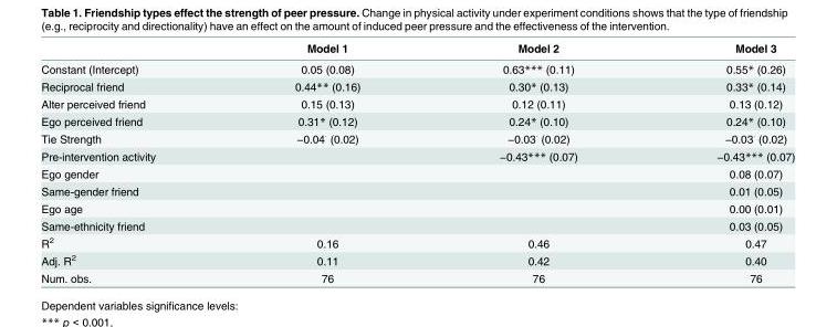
<table><thead><tr><td></td><td>Model 1</td><td>Model 2</td><td>Model 3</td></tr></thead><tbody><tr><td>Constant (Intercept)</td><td>0.05 (0.08)</td><td>0.63*** (0.11)</td><td>0.55* (0.26)</td></tr><tr><td>Reciprocal friend</td><td>0.44** (0.16)</td><td>0.30* (0.13)</td><td>0.33* (0.14)</td></tr><tr><td>Alter perceived friend</td><td>0.15 (0.13)</td><td>0.12 (0.11)</td><td>0.13 (0.12)</td></tr><tr><td>Ego perceived friend</td><td>0.31* (0.12)</td><td>0.24* (0.10)</td><td>0.24* (0.10)</td></tr><tr><td>Tie Strength</td><td>−0.04<sup>⋅</sup> (0.02)</td><td>−0.03<sup>⋅</sup> (0.02)</td><td>−0.03<sup>⋅</sup> (0.02)</td></tr><tr><td>Pre-intervention activity</td><td></td><td>−0.43*** (0.07)</td><td>−0.43*** (0.07)</td></tr><tr><td>Ego gender</td><td></td><td></td><td>0.08 (0.07)</td></tr><tr><td>Same-gender friend</td><td></td><td></td><td>0.01 (0.05)</td></tr><tr><td>Ego age</td><td></td><td></td><td>0.00 (0.01)</td></tr><tr><td>Same-ethnicity friend</td><td></td><td></td><td>0.03 (0.05)</td></tr><tr><td>R<sup>2</sup></td><td>0.16</td><td>0.46</td><td>0.47</td></tr><tr><td>Adj. R<sup>2</sup></td><td>0.11</td><td>0.42</td><td>0.40</td></tr><tr><td>Num. obs.</td><td>76</td><td>76</td><td>76</td></tr></tbody></table>